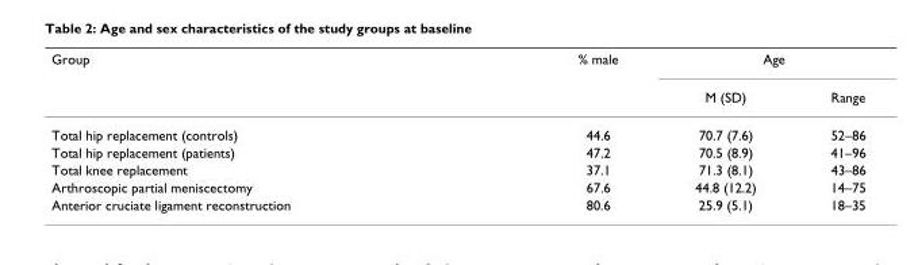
<table><thead><tr><td rowspan="2">Group</td><td rowspan="2">% male</td><td colspan="2">Age</td></tr><tr><td>M (SD)</td><td>Range</td></tr></thead><tbody><tr><td>Total hip replacement (controls)</td><td>44.6</td><td>70.7 (7.6)</td><td>52–86</td></tr><tr><td>Total hip replacement (patients)</td><td>47.2</td><td>70.5 (8.9)</td><td>41–96</td></tr><tr><td>Total knee replacement</td><td>37.1</td><td>71.3 (8.1)</td><td>43–86</td></tr><tr><td>Arthroscopic partial meniscectomy</td><td>67.6</td><td>44.8 (12.2)</td><td>14–75</td></tr><tr><td>Anterior cruciate ligament reconstruction</td><td>80.6</td><td>25.9 (5.1)</td><td>18–35</td></tr></tbody></table>